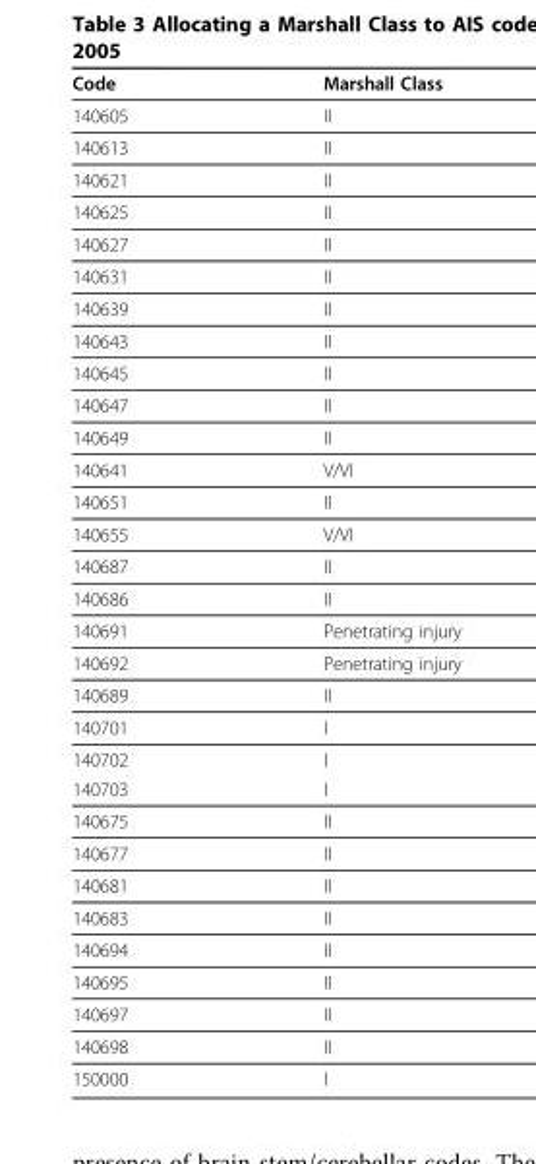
<table><thead><tr><td>Code</td><td>Marshall Class</td></tr></thead><tbody><tr><td>140605</td><td>II</td></tr><tr><td>140613</td><td>II</td></tr><tr><td>140621</td><td>II</td></tr><tr><td>140625</td><td>II</td></tr><tr><td>140627</td><td>II</td></tr><tr><td>140631</td><td>II</td></tr><tr><td>140639</td><td>II</td></tr><tr><td>140643</td><td>II</td></tr><tr><td>140645</td><td>II</td></tr><tr><td>140647</td><td>II</td></tr><tr><td>140649</td><td>II</td></tr><tr><td>140641</td><td>V/VI</td></tr><tr><td>140651</td><td>II</td></tr><tr><td>140655</td><td>V/VI</td></tr><tr><td>140687</td><td>II</td></tr><tr><td>140686</td><td>II</td></tr><tr><td>140691</td><td>Penetrating injury</td></tr><tr><td>140692</td><td>Penetrating injury</td></tr><tr><td>140689</td><td>II</td></tr><tr><td>140701</td><td>I</td></tr><tr><td>140702</td><td>I</td></tr><tr><td>140703</td><td>I</td></tr><tr><td>140675</td><td>II</td></tr><tr><td>140677</td><td>II</td></tr><tr><td>140681</td><td>II</td></tr><tr><td>140683</td><td>II</td></tr><tr><td>140694</td><td>II</td></tr><tr><td>140695</td><td>II</td></tr><tr><td>140697</td><td>II</td></tr><tr><td>140698</td><td>II</td></tr><tr><td>150000</td><td>I</td></tr></tbody></table>